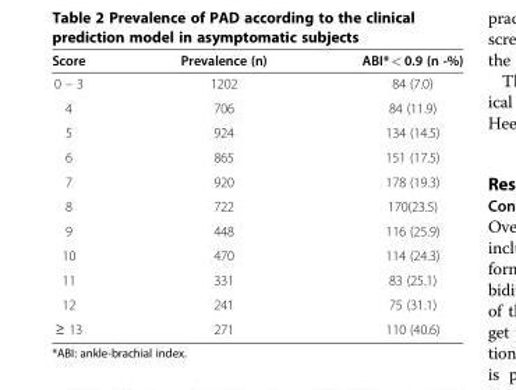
<table><thead><tr><td>Score</td><td>Prevalence (n)</td><td>ABI* &lt; 0.9 (n -%)</td></tr></thead><tbody><tr><td>0 – 3</td><td>1202</td><td>84 (7.0)</td></tr><tr><td>4</td><td>706</td><td>84 (11.9)</td></tr><tr><td>5</td><td>924</td><td>134 (14.5)</td></tr><tr><td>6</td><td>865</td><td>151 (17.5)</td></tr><tr><td>7</td><td>920</td><td>178 (19.3)</td></tr><tr><td>8</td><td>722</td><td>170(23.5)</td></tr><tr><td>9</td><td>448</td><td>116 (25.9)</td></tr><tr><td>10</td><td>470</td><td>114 (24.3)</td></tr><tr><td>11</td><td>331</td><td>83 (25.1)</td></tr><tr><td>12</td><td>241</td><td>75 (31.1)</td></tr><tr><td>≥ 13</td><td>271</td><td>110 (40.6)</td></tr></tbody></table>